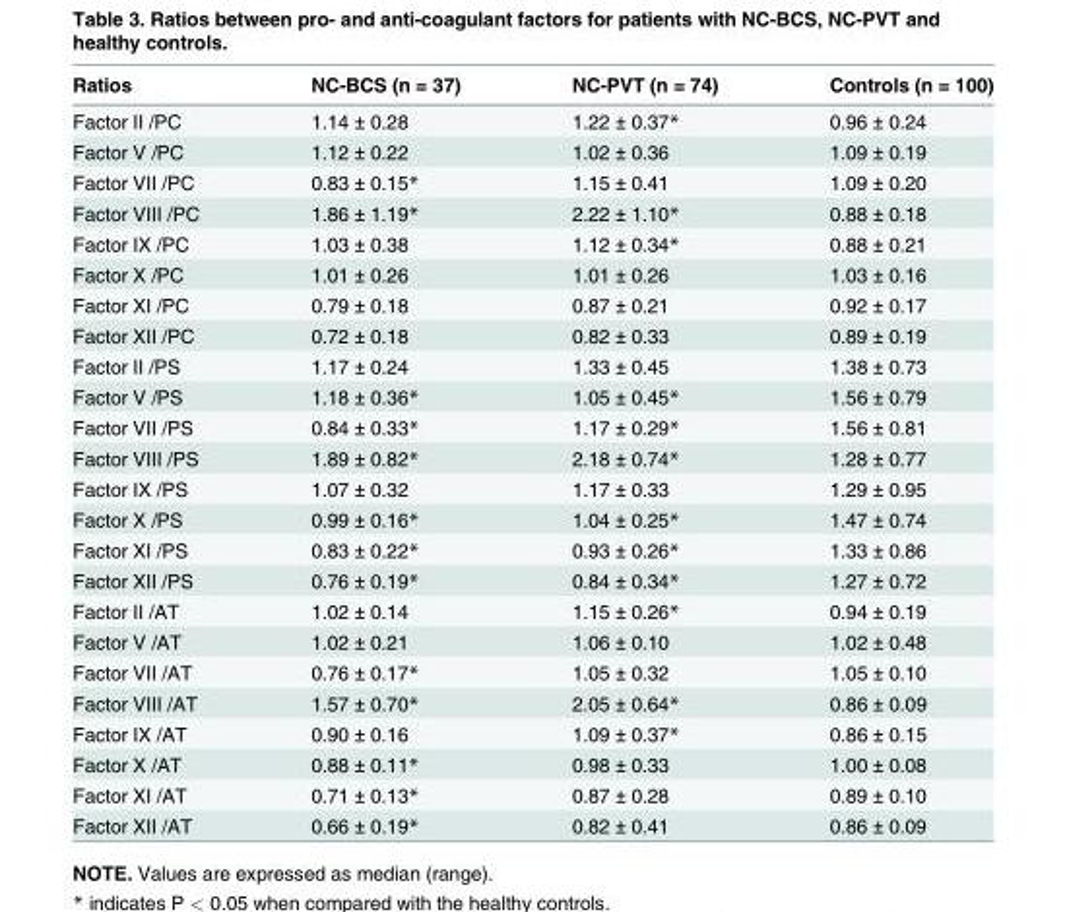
<table><thead><tr><td>Ratios</td><td>NC-BCS (n = 37)</td><td>NC-PVT (n = 74)</td><td>Controls (n = 100)</td></tr></thead><tbody><tr><td>Factor II /PC</td><td>1.14 ± 0.28</td><td>1.22 ± 0.37*</td><td>0.96 ± 0.24</td></tr><tr><td>Factor V /PC</td><td>1.12 ± 0.22</td><td>1.02 ± 0.36</td><td>1.09 ± 0.19</td></tr><tr><td>Factor VII /PC</td><td>0.83 ± 0.15*</td><td>1.15 ± 0.41</td><td>1.09 ± 0.20</td></tr><tr><td>Factor VIII /PC</td><td>1.86 ± 1.19*</td><td>2.22 ± 1.10*</td><td>0.88 ± 0.18</td></tr><tr><td>Factor IX /PC</td><td>1.03 ± 0.38</td><td>1.12 ± 0.34*</td><td>0.88 ± 0.21</td></tr><tr><td>Factor X /PC</td><td>1.01 ± 0.26</td><td>1.01 ± 0.26</td><td>1.03 ± 0.16</td></tr><tr><td>Factor XI /PC</td><td>0.79 ± 0.18</td><td>0.87 ± 0.21</td><td>0.92 ± 0.17</td></tr><tr><td>Factor XII /PC</td><td>0.72 ± 0.18</td><td>0.82 ± 0.33</td><td>0.89 ± 0.19</td></tr><tr><td>Factor II /PS</td><td>1.17 ± 0.24</td><td>1.33 ± 0.45</td><td>1.38 ± 0.73</td></tr><tr><td>Factor V /PS</td><td>1.18 ± 0.36*</td><td>1.05 ± 0.45*</td><td>1.56 ± 0.79</td></tr><tr><td>Factor VII /PS</td><td>0.84 ± 0.33*</td><td>1.17 ± 0.29*</td><td>1.56 ± 0.81</td></tr><tr><td>Factor VIII /PS</td><td>1.89 ± 0.82*</td><td>2.18 ± 0.74*</td><td>1.28 ± 0.77</td></tr><tr><td>Factor IX /PS</td><td>1.07 ± 0.32</td><td>1.17 ± 0.33</td><td>1.29 ± 0.95</td></tr><tr><td>Factor X /PS</td><td>0.99 ± 0.16*</td><td>1.04 ± 0.25*</td><td>1.47 ± 0.74</td></tr><tr><td>Factor XI /PS</td><td>0.83 ± 0.22*</td><td>0.93 ± 0.26*</td><td>1.33 ± 0.86</td></tr><tr><td>Factor XII /PS</td><td>0.76 ± 0.19*</td><td>0.84 ± 0.34*</td><td>1.27 ± 0.72</td></tr><tr><td>Factor II /AT</td><td>1.02 ± 0.14</td><td>1.15 ± 0.26*</td><td>0.94 ± 0.19</td></tr><tr><td>Factor V /AT</td><td>1.02 ± 0.21</td><td>1.06 ± 0.10</td><td>1.02 ± 0.48</td></tr><tr><td>Factor VII /AT</td><td>0.76 ± 0.17*</td><td>1.05 ± 0.32</td><td>1.05 ± 0.10</td></tr><tr><td>Factor VIII /AT</td><td>1.57 ± 0.70*</td><td>2.05 ± 0.64*</td><td>0.86 ± 0.09</td></tr><tr><td>Factor IX /AT</td><td>0.90 ± 0.16</td><td>1.09 ± 0.37*</td><td>0.86 ± 0.15</td></tr><tr><td>Factor X /AT</td><td>0.88 ± 0.11*</td><td>0.98 ± 0.33</td><td>1.00 ± 0.08</td></tr><tr><td>Factor XI /AT</td><td>0.71 ± 0.13*</td><td>0.87 ± 0.28</td><td>0.89 ± 0.10</td></tr><tr><td>Factor XII /AT</td><td>0.66 ± 0.19*</td><td>0.82 ± 0.41</td><td>0.86 ± 0.09</td></tr></tbody></table>